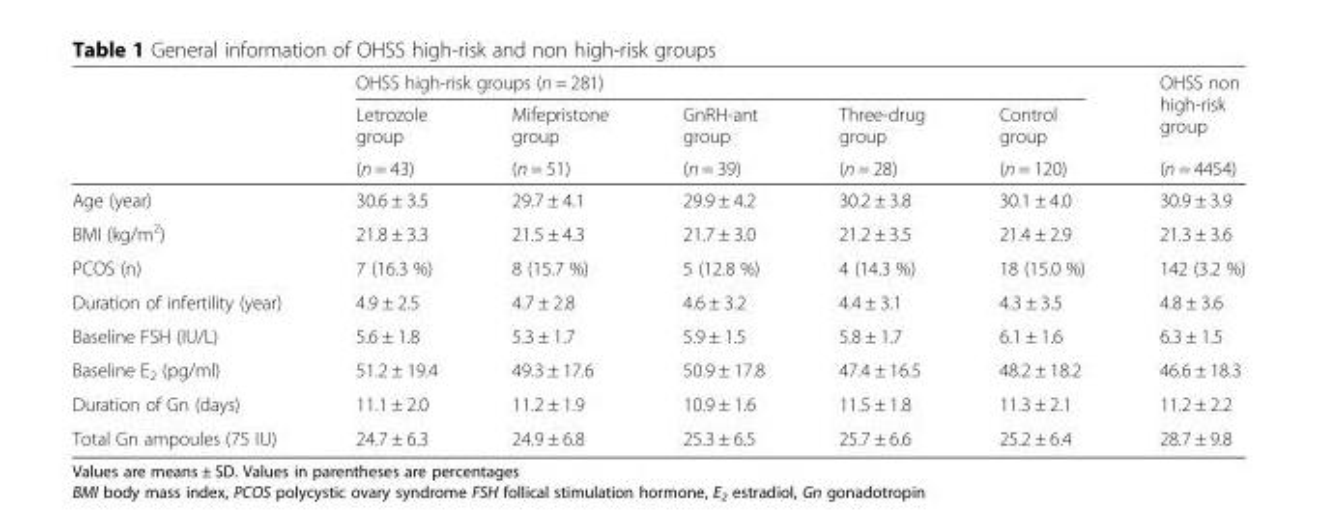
<table><thead><tr><td rowspan="3"></td><td colspan="5">OHSS high-risk groups (n = 281)</td><td rowspan="3">OHSS non high-risk group (n = 4454)</td></tr><tr><td rowspan="2">Letrozole group (n = 43)</td><td rowspan="2">Mifepristone group (n = 51)</td><td rowspan="2">GnRH-ant group (n = 39)</td><td rowspan="2">Three-drug group (n = 28)</td><td rowspan="2">Control group (n = 120)</td></tr><tr></tr></thead><tbody><tr><td>Age (year)</td><td>30.6 ± 3.5</td><td>29.7 ± 4.1</td><td>29.9 ± 4.2</td><td>30.2 ± 3.8</td><td>30.1 ± 4.0</td><td>30.9 ± 3.9</td></tr><tr><td>BMI (kg/m<sup>2</sup>)</td><td>21.8 ± 3.3</td><td>21.5 ± 4.3</td><td>21.7 ± 3.0</td><td>21.2 ± 3.5</td><td>21.4 ± 2.9</td><td>21.3 ± 3.6</td></tr><tr><td>PCOS (n)</td><td>7 (16.3 %)</td><td>8 (15.7 %)</td><td>5 (12.8 %)</td><td>4 (14.3 %)</td><td>18 (15.0 %)</td><td>142 (3.2 %)</td></tr><tr><td>Duration of infertility (year)</td><td>4.9 ± 2.5</td><td>4.7 ± 2.8</td><td>4.6 ± 3.2</td><td>4.4 ± 3.1</td><td>4.3 ± 3.5</td><td>4.8 ± 3.6</td></tr><tr><td>Baseline FSH (IU/L)</td><td>5.6 ± 1.8</td><td>5.3 ± 1.7</td><td>5.9 ± 1.5</td><td>5.8 ± 1.7</td><td>6.1 ± 1.6</td><td>6.3 ± 1.5</td></tr><tr><td>Baseline E<sub>2</sub> (pg/ml)</td><td>51.2 ± 19.4</td><td>49.3 ± 17.6</td><td>50.9 ± 17.8</td><td>47.4 ± 16.5</td><td>48.2 ± 18.2</td><td>46.6 ± 18.3</td></tr><tr><td>Duration of Gn (days)</td><td>11.1 ± 2.0</td><td>11.2 ± 1.9</td><td>10.9 ± 1.6</td><td>11.5 ± 1.8</td><td>11.3 ± 2.1</td><td>11.2 ± 2.2</td></tr><tr><td>Total Gn ampoules (75 IU)</td><td>24.7 ± 6.3</td><td>24.9 ± 6.8</td><td>25.3 ± 6.5</td><td>25.7 ± 6.6</td><td>25.2 ± 6.4</td><td>28.7 ± 9.8</td></tr></tbody></table>